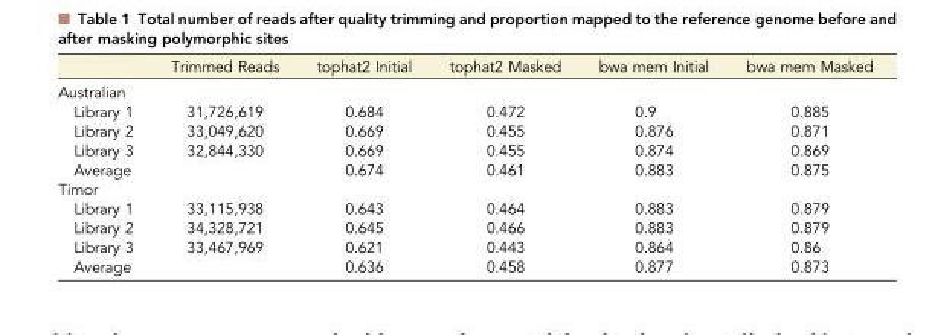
<table><thead><tr><td></td><td>Trimmed Reads</td><td>tophat2 Initial</td><td>tophat2 Masked</td><td>bwa mem Initial</td><td>bwa mem Masked</td></tr></thead><tbody><tr><td colspan="6">Australian</td></tr><tr><td>Library 1</td><td>31,726,619</td><td>0.684</td><td>0.472</td><td>0.9</td><td>0.885</td></tr><tr><td>Library 2</td><td>33,049,620</td><td>0.669</td><td>0.455</td><td>0.876</td><td>0.871</td></tr><tr><td>Library 3</td><td>32,844,330</td><td>0.669</td><td>0.455</td><td>0.874</td><td>0.869</td></tr><tr><td>Average</td><td></td><td>0.674</td><td>0.461</td><td>0.883</td><td>0.875</td></tr><tr><td colspan="6">Timor</td></tr><tr><td>Library 1</td><td>33,115,938</td><td>0.643</td><td>0.464</td><td>0.883</td><td>0.879</td></tr><tr><td>Library 2</td><td>34,328,721</td><td>0.645</td><td>0.466</td><td>0.883</td><td>0.879</td></tr><tr><td>Library 3</td><td>33,467,969</td><td>0.621</td><td>0.443</td><td>0.864</td><td>0.86</td></tr><tr><td>Average</td><td></td><td>0.636</td><td>0.458</td><td>0.877</td><td>0.873</td></tr></tbody></table>